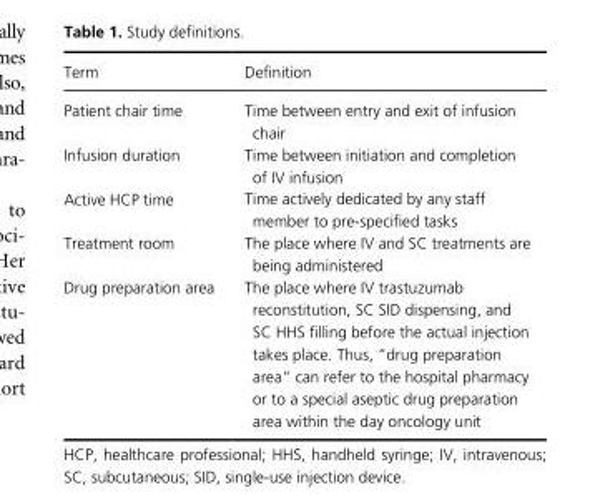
<table><thead><tr><td>Term</td><td>Definition</td></tr></thead><tbody><tr><td>Patient chair time</td><td>Time between entry and exit of infusion chair</td></tr><tr><td>Infusion duration</td><td>Time between initiation and completion of IV infusion</td></tr><tr><td>Active HCP time</td><td>Time actively dedicated by any staff member to pre-specified tasks</td></tr><tr><td>Treatment room</td><td>The place where IV and SC treatments are being administered</td></tr><tr><td>Drug preparation area</td><td>The place where IV trastuzumab reconstitution, SC SID dispensing, and SC HHS filling before the actual injection takes place. Thus, “drug preparation area” can refer to the hospital pharmacy or to a special aseptic drug preparation area within the day oncology unit</td></tr></tbody></table>